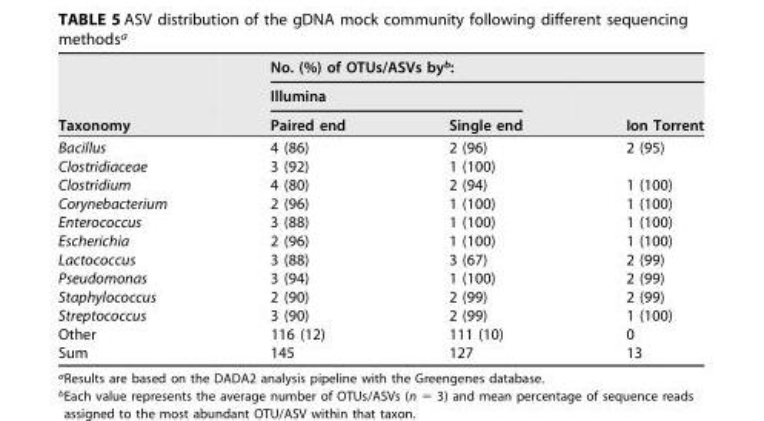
<table><thead><tr><td rowspan="3">Taxonomy</td><td colspan="3">No. (%) of OTUs/ASVs by<sup>b</sup>:</td></tr><tr><td colspan="2">Illumina</td><td rowspan="2">Ion Torrent</td></tr><tr><td>Paired end</td><td>Single end</td></tr></thead><tbody><tr><td>Bacillus</td><td>4 (86)</td><td>2 (96)</td><td>2 (95)</td></tr><tr><td>Clostridiaceae</td><td>3 (92)</td><td>1 (100)</td><td></td></tr><tr><td>Clostridium</td><td>4 (80)</td><td>2 (94)</td><td>1 (100)</td></tr><tr><td>Corynebacterium</td><td>2 (96)</td><td>1 (100)</td><td>1 (100)</td></tr><tr><td>Enterococcus</td><td>3 (88)</td><td>1 (100)</td><td>1 (100)</td></tr><tr><td>Escherichia</td><td>2 (96)</td><td>1 (100)</td><td>1 (100)</td></tr><tr><td>Lactococcus</td><td>3 (88)</td><td>3 (67)</td><td>2 (99)</td></tr><tr><td>Pseudomonas</td><td>3 (94)</td><td>1 (100)</td><td>2 (99)</td></tr><tr><td>Staphylococcus</td><td>2 (90)</td><td>2 (99)</td><td>2 (99)</td></tr><tr><td>Streptococcus</td><td>3 (90)</td><td>2 (99)</td><td>1 (100)</td></tr><tr><td>Other</td><td>116 (12)</td><td>111 (10)</td><td>0</td></tr><tr><td>Sum</td><td>145</td><td>127</td><td>13</td></tr></tbody></table>